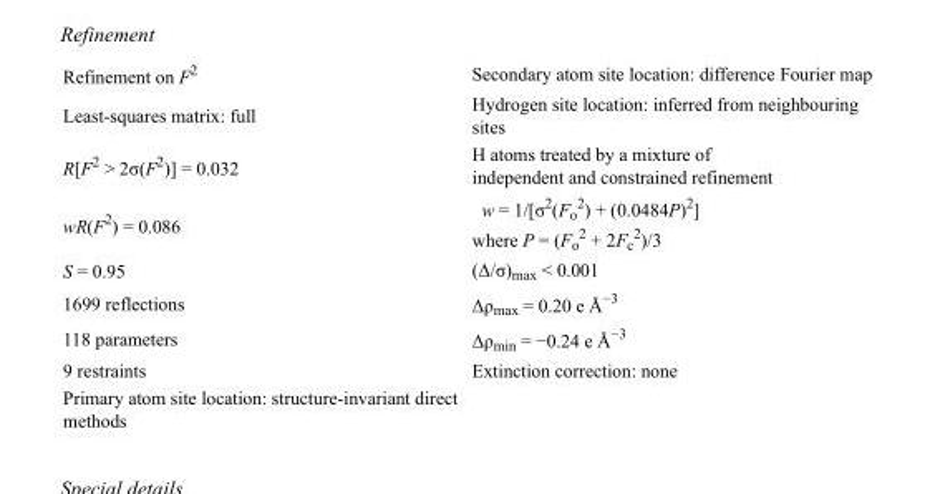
<table><tbody><tr><td>Refinement on F<sup>2</sup></td><td>Secondary atom site location: difference Fourier map</td></tr><tr><td>Least-squares matrix: full</td><td>Hydrogen site location: inferred from neighbouring sites</td></tr><tr><td>R[F<sup>2</sup> &gt; 2σ(F<sup>2</sup>)] = 0.032</td><td>H atoms treated by a mixture of independent and constrained refinement</td></tr><tr><td>wR(F<sup>2</sup>) = 0.086</td><td>w = 1/[σ<sup>2</sup>(F<sub>o</sub> <sup>2</sup>) + (0.0484P)<sup>2</sup>] where P = (F<sub>o</sub> <sup>2</sup> + 2F<sub>c</sub> <sup>2</sup>)/3</td></tr><tr><td>S = 0.95</td><td>(Δ/σ)<sub>max</sub> &lt; 0.001</td></tr><tr><td>1699 reflections</td><td>Δρ<sub>max</sub> = 0.20 e Å<sup>−3</sup></td></tr><tr><td>118 parameters</td><td>Δρ<sub>min</sub> = −0.24 e Å<sup>−3</sup></td></tr><tr><td>9 restraints</td><td>Extinction correction: none</td></tr><tr><td>Primary atom site location: structure-invariant direct methods</td><td></td></tr></tbody></table>